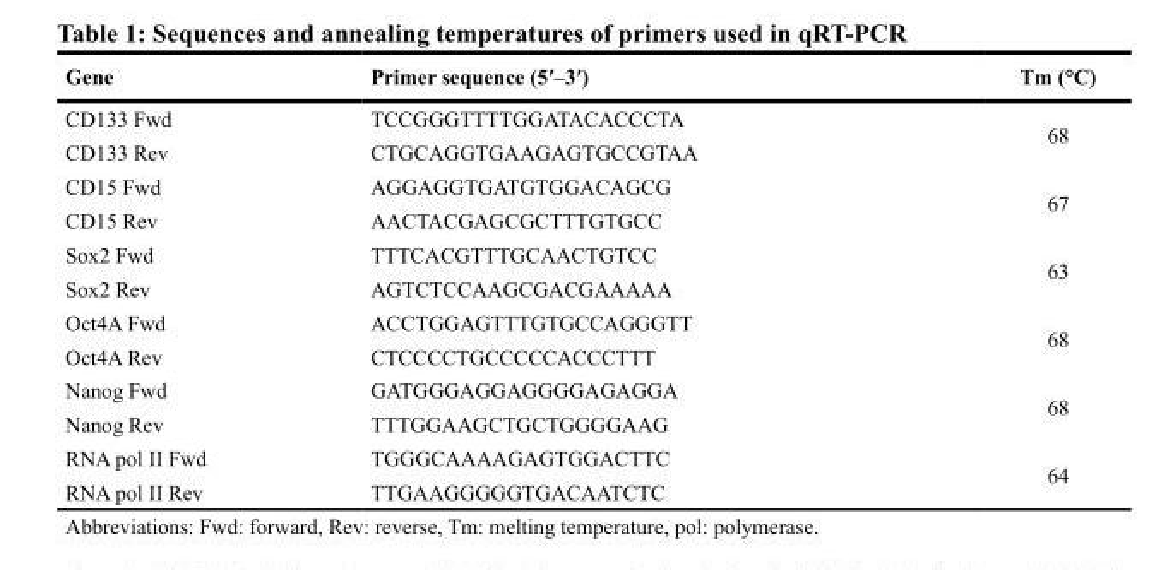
<table><thead><tr><td>Gene</td><td>Primer sequence (5′–3′)</td><td>Tm (°C)</td></tr></thead><tbody><tr><td>CD133 Fwd</td><td>TCCGGGTTTTGGATACACCCTA</td><td rowspan="2">68</td></tr><tr><td>CD133 Rev</td><td>CTGCAGGTGAAGAGTGCCGTAA</td></tr><tr><td>CD15 Fwd</td><td>AGGAGGTGATGTGGACAGCG</td><td rowspan="2">67</td></tr><tr><td>CD15 Rev</td><td>AACTACGAGCGCTTTGTGCC</td></tr><tr><td>Sox2 Fwd</td><td>TTTCACGTTTGCAACTGTCC</td><td rowspan="2">63</td></tr><tr><td>Sox2 Rev</td><td>AGTCTCCAAGCGACGAAAAA</td></tr><tr><td>Oct4A Fwd</td><td>ACCTGGAGTTTGTGCCAGGGTT</td><td rowspan="2">68</td></tr><tr><td>Oct4A Rev</td><td>CTCCCCTGCCCCCACCCTTT</td></tr><tr><td>Nanog Fwd</td><td>GATGGGAGGAGGGGAGAGGA</td><td rowspan="2">68</td></tr><tr><td>Nanog Rev</td><td>TTTGGAAGCTGCTGGGGAAG</td></tr><tr><td>RNA pol II Fwd</td><td>TGGGCAAAAGAGTGGACTTC</td><td rowspan="2">64</td></tr><tr><td>RNA pol II Rev</td><td>TTGAAGGGGGTGACAATCTC</td></tr></tbody></table>